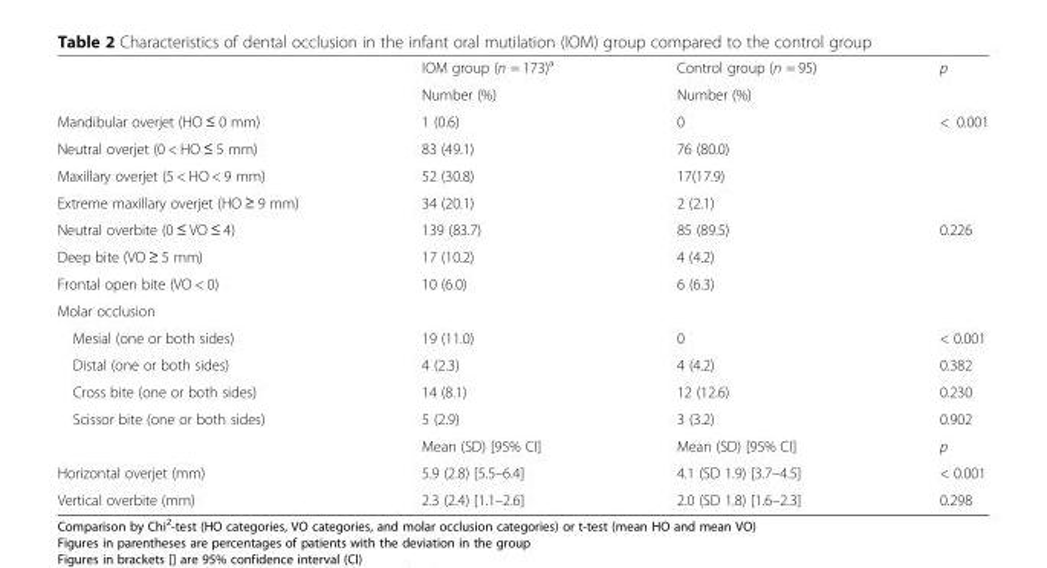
<table><thead><tr><td></td><td>IOM group (n = 173)<sup>a</sup></td><td>Control group (n = 95)</td><td>p</td></tr></thead><tbody><tr><td></td><td>Number (%)</td><td>Number (%)</td><td></td></tr><tr><td>Mandibular overjet (HO ≤ 0 mm)</td><td>1 (0.6)</td><td>0</td><td rowspan="4">&lt; 0.001</td></tr><tr><td>Neutral overjet (0 &lt; HO ≤ 5 mm)</td><td>83 (49.1)</td><td>76 (80.0)</td></tr><tr><td>Maxillary overjet (5 &lt; HO &lt; 9 mm)</td><td>52 (30.8)</td><td>17(17.9)</td></tr><tr><td>Extreme maxillary overjet (HO ≥ 9 mm)</td><td>34 (20.1)</td><td>2 (2.1)</td></tr><tr><td>Neutral overbite (0 ≤ VO ≤ 4)</td><td>139 (83.7)</td><td>85 (89.5)</td><td rowspan="3">0.226</td></tr><tr><td>Deep bite (VO ≥ 5 mm)</td><td>17 (10.2)</td><td>4 (4.2)</td></tr><tr><td>Frontal open bite (VO &lt; 0)</td><td>10 (6.0)</td><td>6 (6.3)</td></tr><tr><td colspan="4">Molar occlusion</td></tr><tr><td>Mesial (one or both sides)</td><td>19 (11.0)</td><td>0</td><td>&lt; 0.001</td></tr><tr><td>Distal (one or both sides)</td><td>4 (2.3)</td><td>4 (4.2)</td><td>0.382</td></tr><tr><td>Cross bite (one or both sides)</td><td>14 (8.1)</td><td>12 (12.6)</td><td>0.230</td></tr><tr><td rowspan="2">Scissor bite (one or both sides)</td><td>5 (2.9)</td><td>3 (3.2)</td><td>0.902</td></tr><tr><td>Mean (SD) [95% CI]</td><td>Mean (SD) [95% CI]</td><td>p</td></tr><tr><td>Horizontal overjet (mm)</td><td>5.9 (2.8) [5.5–6.4]</td><td>4.1 (SD 1.9) [3.7–4.5]</td><td>&lt; 0.001</td></tr><tr><td>Vertical overbite (mm)</td><td>2.3 (2.4) [1.1–2.6]</td><td>2.0 (SD 1.8) [1.6–2.3]</td><td>0.298</td></tr></tbody></table>